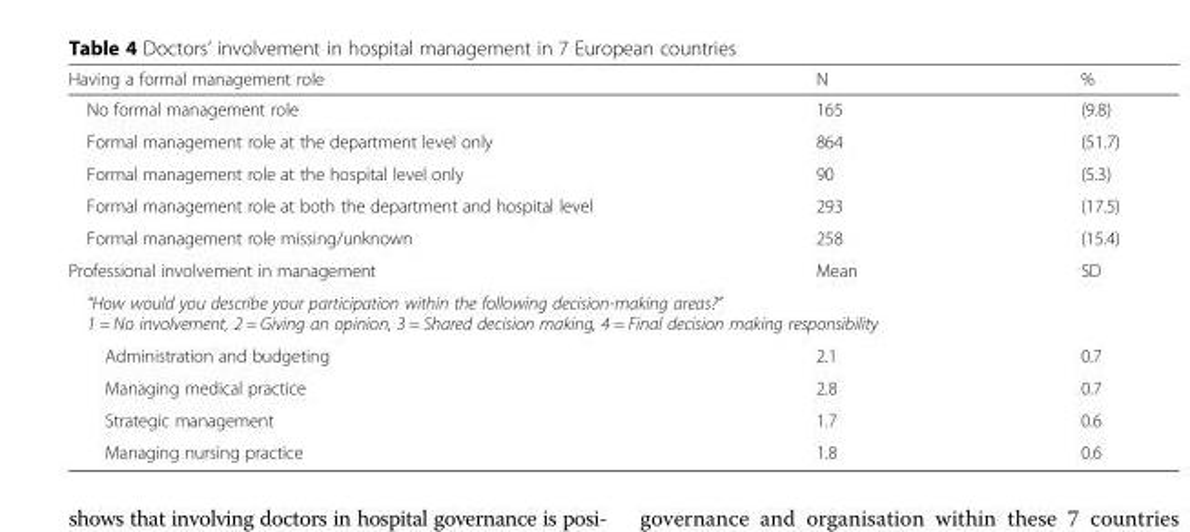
<table><thead><tr><td>Having a formal management role</td><td>N</td><td>%</td></tr></thead><tbody><tr><td>No formal management role</td><td>165</td><td>(9.8)</td></tr><tr><td>Formal management role at the department level only</td><td>864</td><td>(51.7)</td></tr><tr><td>Formal management role at the hospital level only</td><td>90</td><td>(5.3)</td></tr><tr><td>Formal management role at both the department and hospital level</td><td>293</td><td>(17.5)</td></tr><tr><td>Formal management role missing/unknown</td><td>258</td><td>(15.4)</td></tr><tr><td>Professional involvement in management</td><td>Mean</td><td>SD</td></tr><tr><td colspan="3">“How would you describe your participation within the following decision-making areas?” 1 = No involvement, 2 = Giving an opinion, 3 = Shared decision making, 4 = Final decision making responsibility</td></tr><tr><td>Administration and budgeting</td><td>2.1</td><td>0.7</td></tr><tr><td>Managing medical practice</td><td>2.8</td><td>0.7</td></tr><tr><td>Strategic management</td><td>1.7</td><td>0.6</td></tr><tr><td>Managing nursing practice</td><td>1.8</td><td>0.6</td></tr></tbody></table>